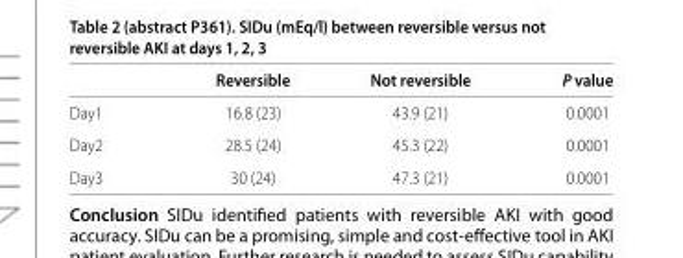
<table><thead><tr><td></td><td>Reversible</td><td>Not reversible</td><td>P value</td></tr></thead><tbody><tr><td>Day1</td><td>16.8 (23)</td><td>43.9 (21)</td><td>0.0001</td></tr><tr><td>Day2</td><td>28.5 (24)</td><td>45.3 (22)</td><td>0.0001</td></tr><tr><td>Day3</td><td>30 (24)</td><td>47.3 (21)</td><td>0.0001</td></tr></tbody></table>